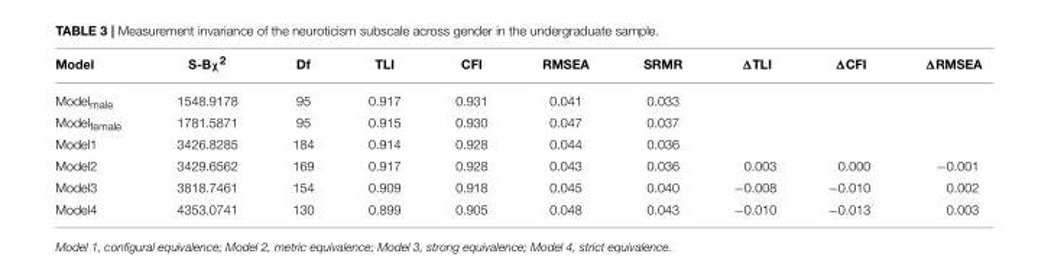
<table><thead><tr><td>Model</td><td>S-Bχ<sup>2</sup></td><td>Df</td><td>TLI</td><td>CFI</td><td>RMSEA</td><td>SRMR</td><td>ΔTLI</td><td>ΔCFI</td><td>ΔRMSEA</td></tr></thead><tbody><tr><td>Model<sub>male</sub></td><td>1548.9178</td><td>95</td><td>0.917</td><td>0.931</td><td>0.041</td><td>0.033</td><td></td><td></td><td></td></tr><tr><td>Model<sub>female</sub></td><td>1781.5871</td><td>95</td><td>0.915</td><td>0.930</td><td>0.047</td><td>0.037</td><td></td><td></td><td></td></tr><tr><td>Model1</td><td>3426.8285</td><td>184</td><td>0.914</td><td>0.928</td><td>0.044</td><td>0.036</td><td></td><td></td><td></td></tr><tr><td>Model2</td><td>3429.6562</td><td>169</td><td>0.917</td><td>0.928</td><td>0.043</td><td>0.036</td><td>0.003</td><td>0.000</td><td>−0.001</td></tr><tr><td>Model3</td><td>3818.7461</td><td>154</td><td>0.909</td><td>0.918</td><td>0.045</td><td>0.040</td><td>−0.008</td><td>−0.010</td><td>0.002</td></tr><tr><td>Model4</td><td>4353.0741</td><td>130</td><td>0.899</td><td>0.905</td><td>0.048</td><td>0.043</td><td>−0.010</td><td>−0.013</td><td>0.003</td></tr></tbody></table>